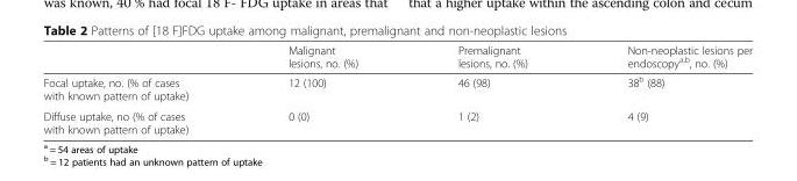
<table><thead><tr><td></td><td>Malignant lesions, no. (%)</td><td>Premalignant lesions, no. (%)</td><td>Non-neoplastic lesions per endoscopy<sup>a,b</sup>, no. (%)</td></tr></thead><tbody><tr><td>Focal uptake, no. (% of cases with known pattern of uptake)</td><td>12 (100)</td><td>46 (98)</td><td>38<sup>b</sup> (88)</td></tr><tr><td>Diffuse uptake, no (% of cases with known pattern of uptake)</td><td>0 (0)</td><td>1 (2)</td><td>4 (9)</td></tr></tbody></table>